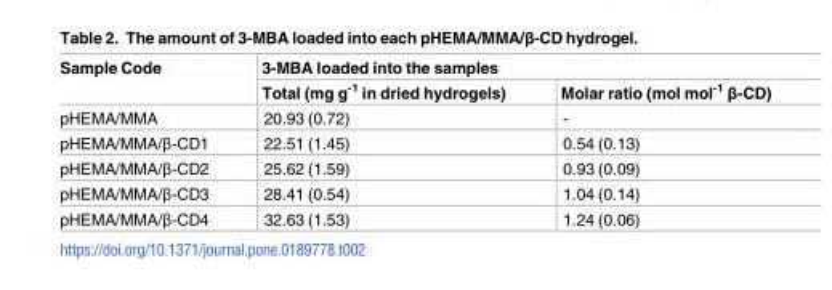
<table><thead><tr><td rowspan="2">Sample Code</td><td colspan="2">3-MBA loaded into the samples</td></tr><tr><td>Total (mg g<sup>-1</sup> in dried hydrogels)</td><td>Molar ratio (mol mol<sup>-1</sup> β-CD)</td></tr></thead><tbody><tr><td>pHEMA/MMA</td><td>20.93 (0.72)</td><td>-</td></tr><tr><td>pHEMA/MMA/β-CD1</td><td>22.51 (1.45)</td><td>0.54 (0.13)</td></tr><tr><td>pHEMA/MMA/β-CD2</td><td>25.62 (1.59)</td><td>0.93 (0.09)</td></tr><tr><td>pHEMA/MMA/β-CD3</td><td>28.41 (0.54)</td><td>1.04 (0.14)</td></tr><tr><td>pHEMA/MMA/β-CD4</td><td>32.63 (1.53)</td><td>1.24 (0.06)</td></tr></tbody></table>